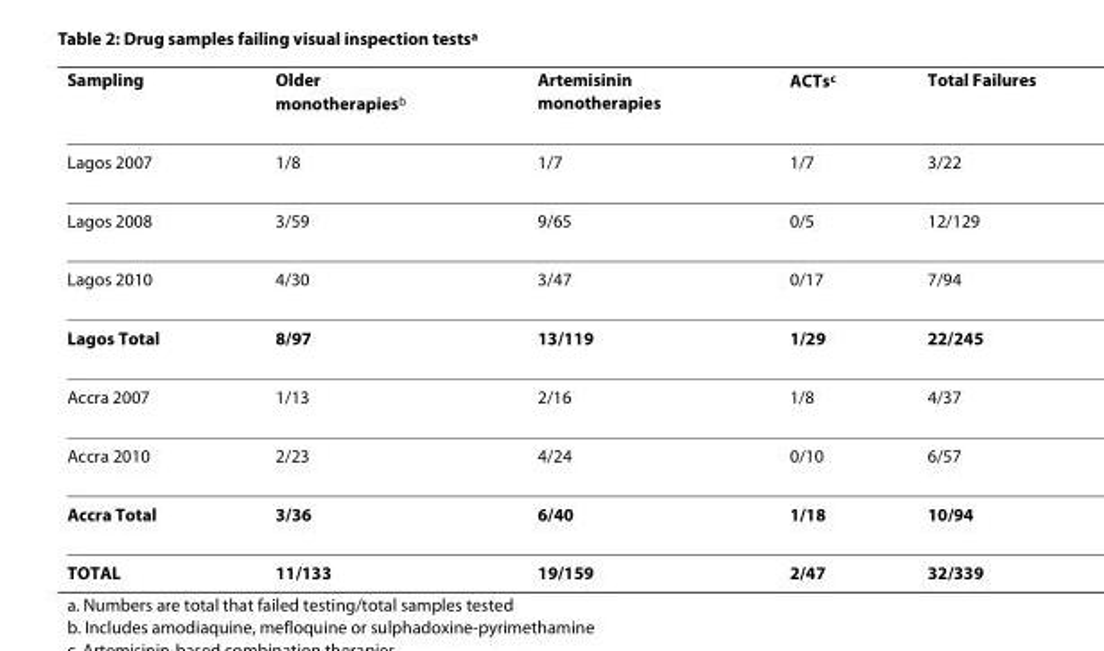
<table><thead><tr><td>Sampling</td><td>Older monotherapies<sup>b</sup></td><td>Artemisinin monotherapies</td><td>ACTs<sup>c</sup></td><td>Total Failures</td></tr></thead><tbody><tr><td>Lagos 2007</td><td>1/8</td><td>1/7</td><td>1/7</td><td>3/22</td></tr><tr><td>Lagos 2008</td><td>3/59</td><td>9/65</td><td>0/5</td><td>12/129</td></tr><tr><td>Lagos 2010</td><td>4/30</td><td>3/47</td><td>0/17</td><td>7/94</td></tr><tr><td>Lagos Total</td><td>8/97</td><td>13/119</td><td>1/29</td><td>22/245</td></tr><tr><td>Accra 2007</td><td>1/13</td><td>2/16</td><td>1/8</td><td>4/37</td></tr><tr><td>Accra 2010</td><td>2/23</td><td>4/24</td><td>0/10</td><td>6/57</td></tr><tr><td>Accra Total</td><td>3/36</td><td>6/40</td><td>1/18</td><td>10/94</td></tr><tr><td>TOTAL</td><td>11/133</td><td>19/159</td><td>2/47</td><td>32/339</td></tr></tbody></table>